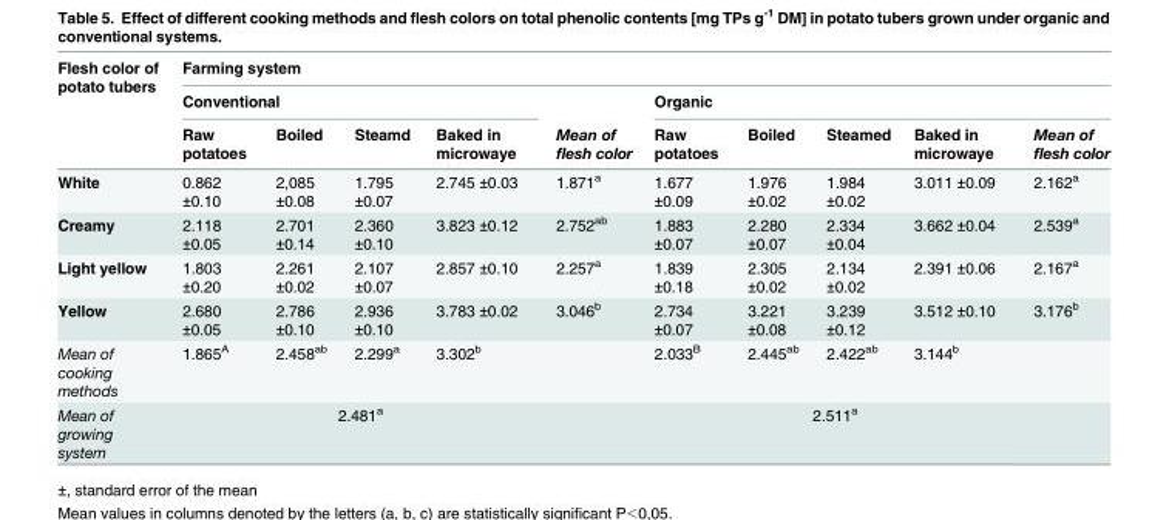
<table><thead><tr><td rowspan="3">Flesh color of potato tubers</td><td colspan="10">Farming system</td></tr><tr><td colspan="4">Conventional</td><td rowspan="2">Mean of flesh color</td><td colspan="5">Organic</td></tr><tr><td>Raw potatoes</td><td>Boiled</td><td>Steamd</td><td>Baked in microwaye</td><td>Raw potatoes</td><td>Boiled</td><td>Steamed</td><td>Baked in microwaye</td><td>Mean of flesh color</td></tr></thead><tbody><tr><td>White</td><td>0.862 ±0.10</td><td>2,085 ±0.08</td><td>1.795 ±0.07</td><td>2.745 ±0.03</td><td>1.871<sup>a</sup></td><td>1.677 ±0.09</td><td>1.976 ±0.02</td><td>1.984 ±0.02</td><td>3.011 ±0.09</td><td>2.162<sup>a</sup></td></tr><tr><td>Creamy</td><td>2.118 ±0.05</td><td>2.701 ±0.14</td><td>2.360 ±0.10</td><td>3.823 ±0.12</td><td>2.752<sup>ab</sup></td><td>1.883 ±0.07</td><td>2.280 ±0.07</td><td>2.334 ±0.04</td><td>3.662 ±0.04</td><td>2.539<sup>a</sup></td></tr><tr><td>Light yellow</td><td>1.803 ±0.20</td><td>2.261 ±0.02</td><td>2.107 ±0.07</td><td>2.857 ±0.10</td><td>2.257<sup>a</sup></td><td>1.839 ±0.18</td><td>2.305 ±0.02</td><td>2.134 ±0.02</td><td>2.391 ±0.06</td><td>2.167<sup>a</sup></td></tr><tr><td>Yellow</td><td>2.680 ±0.05</td><td>2.786 ±0.10</td><td>2.936 ±0.10</td><td>3.783 ±0.02</td><td>3.046<sup>b</sup></td><td>2.734 ±0.07</td><td>3.221 ±0.08</td><td>3.239 ±0.12</td><td>3.512 ±0.10</td><td>3.176<sup>b</sup></td></tr><tr><td>Mean of cooking methods</td><td>1.865<sup>A</sup></td><td>2.458<sup>ab</sup></td><td>2.299<sup>a</sup></td><td>3.302<sup>b</sup></td><td></td><td>2.033<sup>B</sup></td><td>2.445<sup>ab</sup></td><td>2.422<sup>ab</sup></td><td>3.144<sup>b</sup></td><td></td></tr><tr><td>Mean of growing system</td><td colspan="4">2.481<sup>a</sup></td><td></td><td colspan="4">2.511<sup>a</sup></td><td></td></tr></tbody></table>